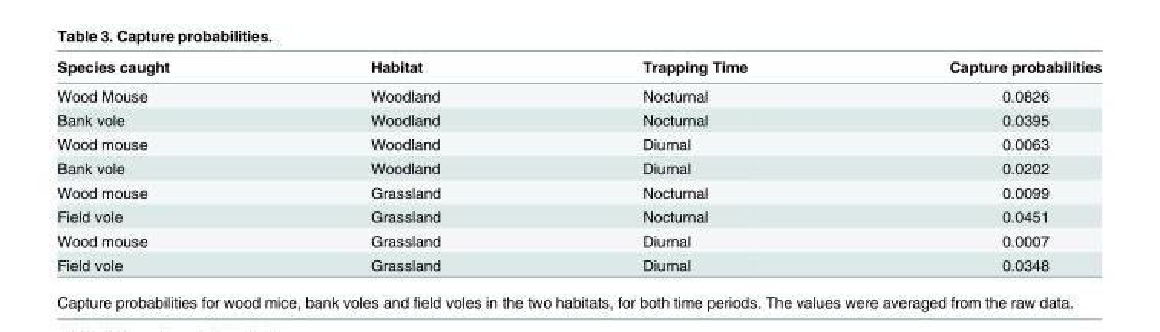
<table><thead><tr><td>Species caught</td><td>Habitat</td><td>Trapping Time</td><td>Capture probabilities</td></tr></thead><tbody><tr><td>Wood Mouse</td><td>Woodland</td><td>Nocturnal</td><td>0.0826</td></tr><tr><td>Bank vole</td><td>Woodland</td><td>Nocturnal</td><td>0.0395</td></tr><tr><td>Wood mouse</td><td>Woodland</td><td>Diurnal</td><td>0.0063</td></tr><tr><td>Bank vole</td><td>Woodland</td><td>Diurnal</td><td>0.0202</td></tr><tr><td>Wood mouse</td><td>Grassland</td><td>Nocturnal</td><td>0.0099</td></tr><tr><td>Field vole</td><td>Grassland</td><td>Nocturnal</td><td>0.0451</td></tr><tr><td>Wood mouse</td><td>Grassland</td><td>Diurnal</td><td>0.0007</td></tr><tr><td>Field vole</td><td>Grassland</td><td>Diurnal</td><td>0.0348</td></tr></tbody></table>